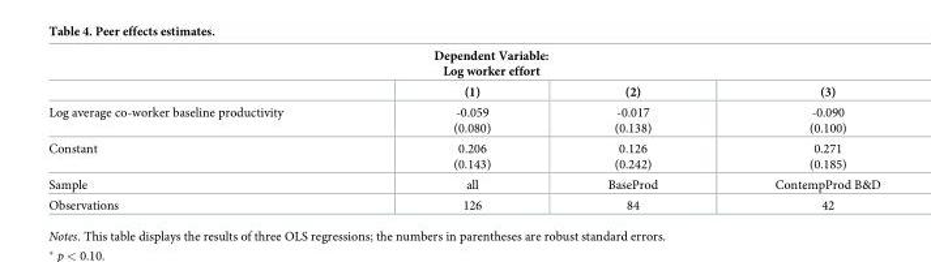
<table><thead><tr><td colspan="4">Dependent Variable: Log worker effort</td></tr><tr><td></td><td>(1)</td><td>(2)</td><td>(3)</td></tr></thead><tbody><tr><td>Log average co-worker baseline productivity</td><td>-0.059 (0.080)</td><td>-0.017 (0.138)</td><td>-0.090 (0.100)</td></tr><tr><td>Constant</td><td>0.206 (0.143)</td><td>0.126 (0.242)</td><td>0.271 (0.185)</td></tr><tr><td>Sample</td><td>all</td><td>BaseProd</td><td>ContempProd B&amp;D</td></tr><tr><td>Observations</td><td>126</td><td>84</td><td>42</td></tr></tbody></table>